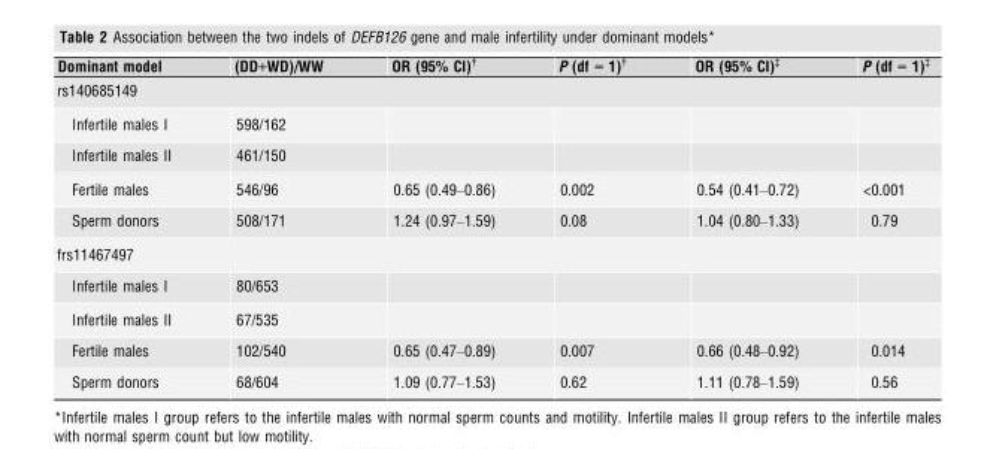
<table><thead><tr><td>Dominant model</td><td>(DD+WD)/WW</td><td>OR (95% CI)†</td><td>P (df = 1)†</td><td>OR (95% CI)‡</td><td>P (df = 1)‡</td></tr></thead><tbody><tr><td colspan="6">rs140685149</td></tr><tr><td>Infertile males I</td><td>598/162</td><td></td><td></td><td></td><td></td></tr><tr><td>Infertile males II</td><td>461/150</td><td></td><td></td><td></td><td></td></tr><tr><td>Fertile males</td><td>546/96</td><td>0.65 (0.49–0.86)</td><td>0.002</td><td>0.54 (0.41–0.72)</td><td>&lt;0.001</td></tr><tr><td>Sperm donors</td><td>508/171</td><td>1.24 (0.97–1.59)</td><td>0.08</td><td>1.04 (0.80–1.33)</td><td>0.79</td></tr><tr><td colspan="6">frs11467497</td></tr><tr><td>Infertile males I</td><td>80/653</td><td></td><td></td><td></td><td></td></tr><tr><td>Infertile males II</td><td>67/535</td><td></td><td></td><td></td><td></td></tr><tr><td>Fertile males</td><td>102/540</td><td>0.65 (0.47–0.89)</td><td>0.007</td><td>0.66 (0.48–0.92)</td><td>0.014</td></tr><tr><td>Sperm donors</td><td>68/604</td><td>1.09 (0.77–1.53)</td><td>0.62</td><td>1.11 (0.78–1.59)</td><td>0.56</td></tr></tbody></table>